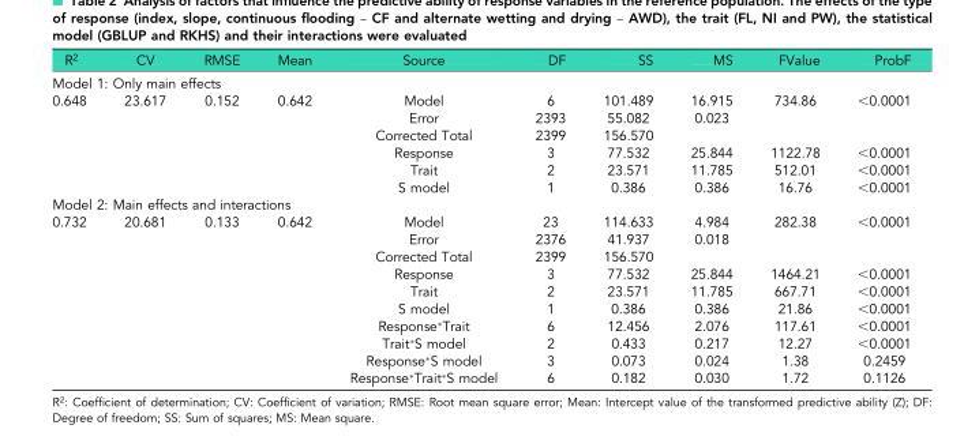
<table><thead><tr><td>R<sup>2</sup></td><td>CV</td><td>RMSE</td><td>Mean</td><td>Source</td><td>DF</td><td>SS</td><td>MS</td><td>FValue</td><td>ProbF</td></tr></thead><tbody><tr><td colspan="10">Model 1: Only main effects</td></tr><tr><td rowspan="6">0.648</td><td>23.617</td><td>0.152</td><td>0.642</td><td>Model</td><td>6</td><td>101.489</td><td>16.915</td><td>734.86</td><td>&lt;0.0001</td></tr><tr><td></td><td></td><td></td><td>Error</td><td>2393</td><td>55.082</td><td>0.023</td><td></td><td></td></tr><tr><td></td><td></td><td></td><td>Corrected Total</td><td>2399</td><td>156.570</td><td></td><td></td><td></td></tr><tr><td></td><td></td><td></td><td>Response</td><td>3</td><td>77.532</td><td>25.844</td><td>1122.78</td><td>&lt;0.0001</td></tr><tr><td></td><td></td><td></td><td>Trait</td><td>2</td><td>23.571</td><td>11.785</td><td>512.01</td><td>&lt;0.0001</td></tr><tr><td></td><td></td><td></td><td>S model</td><td>1</td><td>0.386</td><td>0.386</td><td>16.76</td><td>&lt;0.0001</td></tr><tr><td colspan="10">Model 2: Main effects and interactions</td></tr><tr><td rowspan="10">0.732</td><td>20.681</td><td>0.133</td><td>0.642</td><td>Model</td><td>23</td><td>114.633</td><td>4.984</td><td>282.38</td><td>&lt;0.0001</td></tr><tr><td></td><td></td><td></td><td>Error</td><td>2376</td><td>41.937</td><td>0.018</td><td></td><td></td></tr><tr><td></td><td></td><td></td><td>Corrected Total</td><td>2399</td><td>156.570</td><td></td><td></td><td></td></tr><tr><td></td><td></td><td></td><td>Response</td><td>3</td><td>77.532</td><td>25.844</td><td>1464.21</td><td>&lt;0.0001</td></tr><tr><td></td><td></td><td></td><td>Trait</td><td>2</td><td>23.571</td><td>11.785</td><td>667.71</td><td>&lt;0.0001</td></tr><tr><td></td><td></td><td></td><td>S model</td><td>1</td><td>0.386</td><td>0.386</td><td>21.86</td><td>&lt;0.0001</td></tr><tr><td></td><td></td><td></td><td>Response*Trait</td><td>6</td><td>12.456</td><td>2.076</td><td>117.61</td><td>&lt;0.0001</td></tr><tr><td></td><td></td><td></td><td>Trait*S model</td><td>2</td><td>0.433</td><td>0.217</td><td>12.27</td><td>&lt;0.0001</td></tr><tr><td></td><td></td><td></td><td>Response*S model</td><td>3</td><td>0.073</td><td>0.024</td><td>1.38</td><td>0.2459</td></tr><tr><td></td><td></td><td></td><td>Response*Trait*S model</td><td>6</td><td>0.182</td><td>0.030</td><td>1.72</td><td>0.1126</td></tr></tbody></table>